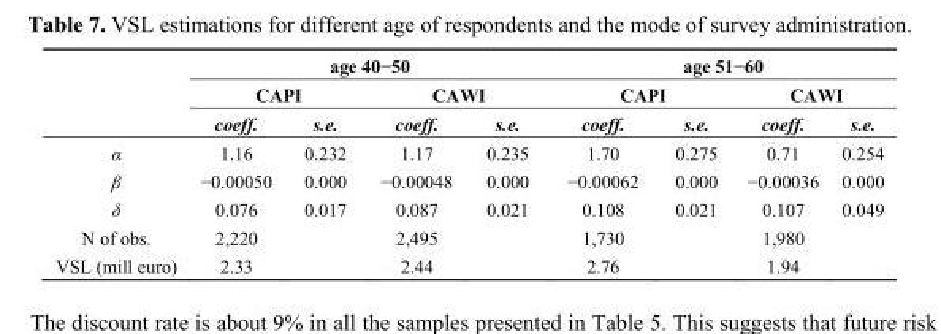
<table><thead><tr><td rowspan="3"></td><td colspan="4">age 40−50</td><td colspan="4">age 51−60</td></tr><tr><td colspan="2">CAPI</td><td colspan="2">CAWI</td><td colspan="2">CAPI</td><td colspan="2">CAWI</td></tr><tr><td>coeff.</td><td>s.e.</td><td>coeff.</td><td>s.e.</td><td>coeff.</td><td>s.e.</td><td>coeff.</td><td>s.e.</td></tr></thead><tbody><tr><td>α</td><td>1.16</td><td>0.232</td><td>1.17</td><td>0.235</td><td>1.70</td><td>0.275</td><td>0.71</td><td>0.254</td></tr><tr><td>β</td><td>−0.00050</td><td>0.000</td><td>−0.00048</td><td>0.000</td><td>−0.00062</td><td>0.000</td><td>−0.00036</td><td>0.000</td></tr><tr><td>δ</td><td>0.076</td><td>0.017</td><td>0.087</td><td>0.021</td><td>0.108</td><td>0.021</td><td>0.107</td><td>0.049</td></tr><tr><td>N of obs.</td><td>2,220</td><td></td><td>2,495</td><td></td><td>1,730</td><td></td><td>1,980</td><td></td></tr><tr><td>VSL (mill euro)</td><td>2.33</td><td></td><td>2.44</td><td></td><td>2.76</td><td></td><td>1.94</td><td></td></tr></tbody></table>